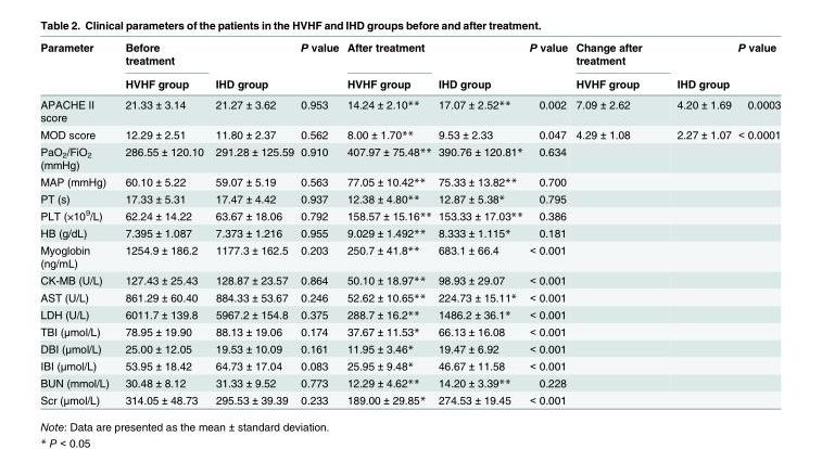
<table><thead><tr><td rowspan="2">Parameter</td><td rowspan="2">Before treatment HVHF group</td><td rowspan="2">IHD group</td><td rowspan="2">P value</td><td rowspan="2">After treatment HVHF group</td><td rowspan="2">IHD group</td><td rowspan="2">P value</td><td rowspan="2">Change after treatment HVHF group</td><td rowspan="2">IHD group</td><td rowspan="2">P value</td></tr><tr></tr></thead><tbody><tr><td>APACHE II score</td><td>21.33 ± 3.14</td><td>21.27 ± 3.62</td><td>0.953</td><td>14.24 ± 2.10**</td><td>17.07 ± 2.52**</td><td>0.002</td><td>7.09 ± 2.62</td><td>4.20 ± 1.69</td><td>0.0003</td></tr><tr><td>MOD score</td><td>12.29 ± 2.51</td><td>11.80 ± 2.37</td><td>0.562</td><td>8.00 ± 1.70**</td><td>9.53 ± 2.33</td><td>0.047</td><td>4.29 ± 1.08</td><td>2.27 ± 1.07</td><td>&lt; 0.0001</td></tr><tr><td>PaO<sub>2</sub>/FiO<sub>2</sub> (mmHg)</td><td>286.55 ± 120.10</td><td>291.28 ± 125.59</td><td>0.910</td><td>407.97 ± 75.48**</td><td>390.76 ± 120.81*</td><td>0.634</td><td></td><td></td><td></td></tr><tr><td>MAP (mmHg)</td><td>60.10 ± 5.22</td><td>59.07 ± 5.19</td><td>0.563</td><td>77.05 ± 10.42**</td><td>75.33 ± 13.82**</td><td>0.700</td><td></td><td></td><td></td></tr><tr><td>PT (s)</td><td>17.33 ± 5.31</td><td>17.47 ± 4.42</td><td>0.937</td><td>12.38 ± 4.80**</td><td>12.87 ± 5.38*</td><td>0.795</td><td></td><td></td><td></td></tr><tr><td>PLT (×10<sup>9</sup>/L)</td><td>62.24 ± 14.22</td><td>63.67 ± 18.06</td><td>0.792</td><td>158.57 ± 15.16**</td><td>153.33 ± 17.03**</td><td>0.386</td><td></td><td></td><td></td></tr><tr><td>HB (g/dL)</td><td>7.395 ± 1.087</td><td>7.373 ± 1.216</td><td>0.955</td><td>9.029 ± 1.492**</td><td>8.333 ± 1.115*</td><td>0.181</td><td></td><td></td><td></td></tr><tr><td>Myoglobin (ng/mL)</td><td>1254.9 ± 186.2</td><td>1177.3 ± 162.5</td><td>0.203</td><td>250.7 ± 41.8**</td><td>683.1 ± 66.4</td><td>&lt; 0.001</td><td></td><td></td><td></td></tr><tr><td>CK-MB (U/L)</td><td>127.43 ± 25.43</td><td>128.87 ± 23.57</td><td>0.864</td><td>50.10 ± 18.97**</td><td>98.93 ± 29.07</td><td>&lt; 0.001</td><td></td><td></td><td></td></tr><tr><td>AST (U/L)</td><td>861.29 ± 60.40</td><td>884.33 ± 53.67</td><td>0.246</td><td>52.62 ± 10.65**</td><td>224.73 ± 15.11*</td><td>&lt; 0.001</td><td></td><td></td><td></td></tr><tr><td>LDH (U/L)</td><td>6011.7 ± 139.8</td><td>5967.2 ± 154.8</td><td>0.375</td><td>288.7 ± 16.2**</td><td>1486.2 ± 36.1*</td><td>&lt; 0.001</td><td></td><td></td><td></td></tr><tr><td>TBI (μmol/L)</td><td>78.95 ± 19.90</td><td>88.13 ± 19.06</td><td>0.174</td><td>37.67 ± 11.53*</td><td>66.13 ± 16.08</td><td>&lt; 0.001</td><td></td><td></td><td></td></tr><tr><td>DBI (μmol/L)</td><td>25.00 ± 12.05</td><td>19.53 ± 10.09</td><td>0.161</td><td>11.95 ± 3.46*</td><td>19.47 ± 6.92</td><td>&lt; 0.001</td><td></td><td></td><td></td></tr><tr><td>IBI (μmol/L)</td><td>53.95 ± 18.42</td><td>64.73 ± 17.04</td><td>0.083</td><td>25.95 ± 9.48*</td><td>46.67 ± 11.58</td><td>&lt; 0.001</td><td></td><td></td><td></td></tr><tr><td>BUN (mmol/L)</td><td>30.48 ± 8.12</td><td>31.33 ± 9.52</td><td>0.773</td><td>12.29 ± 4.62**</td><td>14.20 ± 3.39**</td><td>0.228</td><td></td><td></td><td></td></tr><tr><td>Scr (μmol/L)</td><td>314.05 ± 48.73</td><td>295.53 ± 39.39</td><td>0.233</td><td>189.00 ± 29.85*</td><td>274.53 ± 19.45</td><td>&lt; 0.001</td><td></td><td></td><td></td></tr></tbody></table>